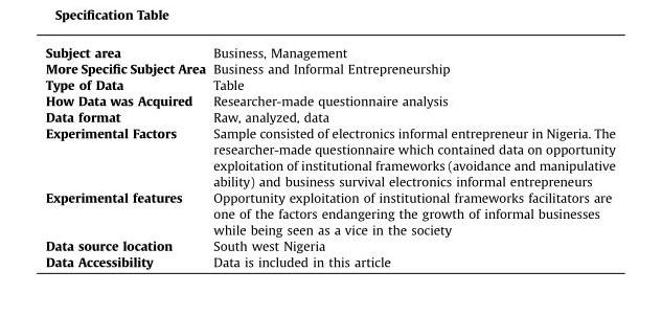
<table><tbody><tr><td>Subject area</td><td>Business, Management</td></tr><tr><td>More Specific Subject Area</td><td>Business and Informal Entrepreneurship</td></tr><tr><td>Type of Data</td><td>Table</td></tr><tr><td>How Data was Acquired</td><td>Researcher-made questionnaire analysis</td></tr><tr><td>Data format</td><td>Raw, analyzed, data</td></tr><tr><td>Experimental Factors</td><td>Sample consisted of electronics informal entrepreneur in Nigeria. The researcher-made questionnaire which contained data on opportunity exploitation of institutional frameworks (avoidance and manipulative ability) and business survival electronics informal entrepreneurs</td></tr><tr><td>Experimental features</td><td>Opportunity exploitation of institutional frameworks facilitators are one of the factors endangering the growth of informal businesses while being seen as a vice in the society</td></tr><tr><td>Data source location</td><td>South west Nigeria</td></tr><tr><td>Data Accessibility</td><td>Data is included in this article</td></tr></tbody></table>